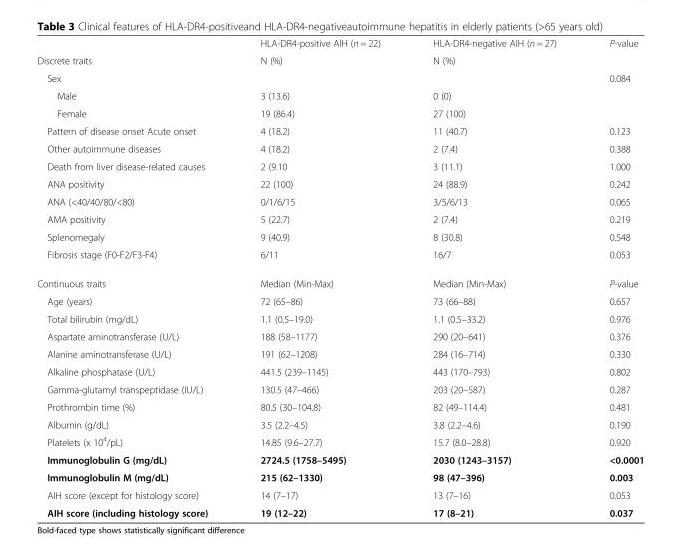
<table><thead><tr><td></td><td>HLA-DR4-positive AlH (n = 22)</td><td>HLA-DR4-negative AIH (n = 27)</td><td>P-value</td></tr></thead><tbody><tr><td>Discrete traits</td><td>N (%)</td><td>N (%)</td><td></td></tr><tr><td colspan="3">Sex</td><td rowspan="3">0.084</td></tr><tr><td>Male</td><td>3 (13.6)</td><td>0 (0)</td></tr><tr><td>Female</td><td>19 (86.4)</td><td>27 (100)</td></tr><tr><td>Pattern of disease onset Acute onset</td><td>4 (18.2)</td><td>11 (40.7)</td><td>0.123</td></tr><tr><td>Other autoimmune diseases</td><td>4 (18.2)</td><td>2 (7.4)</td><td>0.388</td></tr><tr><td>Death from liver disease-related causes</td><td>2 (9.10</td><td>3 (11.1)</td><td>1.000</td></tr><tr><td>ANA positivity</td><td>22 (100)</td><td>24 (88.9)</td><td>0.242</td></tr><tr><td>ANA (&lt;40/40/80/&lt;80)</td><td>0/1/6/15</td><td>3/5/6/13</td><td>0.065</td></tr><tr><td>AMA positivity</td><td>5 (22.7)</td><td>2 (7.4)</td><td>0.219</td></tr><tr><td>Splenomegaly</td><td>9 (40.9)</td><td>8 (30.8)</td><td>0.548</td></tr><tr><td>Fibrosis stage (F0-F2/F3-F4)</td><td>6/11</td><td>16/7</td><td>0.053</td></tr><tr><td>Continuous traits</td><td>Median (Min-Max)</td><td>Median (Min-Max)</td><td>P-value</td></tr><tr><td>Age (years)</td><td>72 (65–86)</td><td>73 (66–88)</td><td>0.657</td></tr><tr><td>Total bilirubin (mg/dL)</td><td>1.1 (0.5–19.0)</td><td>1.1 (0.5–33.2)</td><td>0.976</td></tr><tr><td>Aspartate aminotransferase (U/L)</td><td>188 (58–1177)</td><td>290 (20–641)</td><td>0.376</td></tr><tr><td>Alanine aminotransferase (U/L)</td><td>191 (62–1208)</td><td>284 (16–714)</td><td>0.330</td></tr><tr><td>Alkaline phosphatase (U/L)</td><td>441.5 (239–1145)</td><td>443 (170–793)</td><td>0.802</td></tr><tr><td>Gamma-glutamyl transpeptidase (IU/L)</td><td>130.5 (47–466)</td><td>203 (20–587)</td><td>0.287</td></tr><tr><td>Prothrombin time (%)</td><td>80.5 (30–104.8)</td><td>82 (49–114.4)</td><td>0.481</td></tr><tr><td>Albumin (g/dL)</td><td>3.5 (2.2–4.5)</td><td>3.8 (2.2–4.6)</td><td>0.190</td></tr><tr><td>Platelets (x 10<sup>4</sup>/pL)</td><td>14.85 (9.6–27.7)</td><td>15.7 (8.0–28.8)</td><td>0.920</td></tr><tr><td>Immunoglobulin G (mg/dL)</td><td>2724.5 (1758–5495)</td><td>2030 (1243–3157)</td><td>&lt;0.0001</td></tr><tr><td>Immunoglobulin M (mg/dL)</td><td>215 (62–1330)</td><td>98 (47–396)</td><td>0.003</td></tr><tr><td>AIH score (except for histology score)</td><td>14 (7–17)</td><td>13 (7–16)</td><td>0.053</td></tr><tr><td>AIH score (including histology score)</td><td>19 (12–22)</td><td>17 (8–21)</td><td>0.037</td></tr></tbody></table>